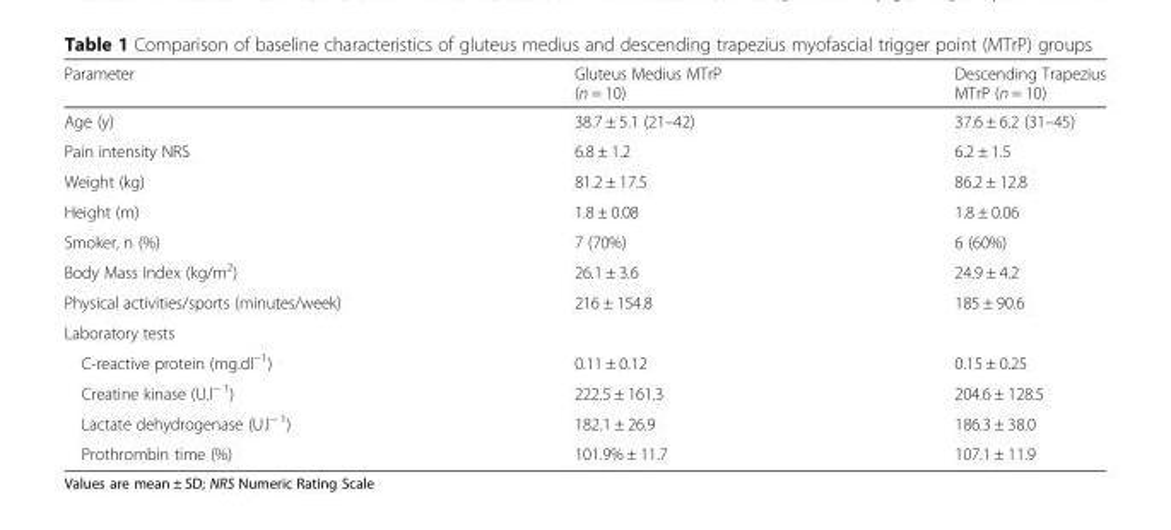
<table><thead><tr><td>Parameter</td><td>Gluteus Medius MTrP (n = 10)</td><td>Descending Trapezius MTrP (n = 10)</td></tr></thead><tbody><tr><td>Age (y)</td><td>38.7 ± 5.1 (21–42)</td><td>37.6 ± 6.2 (31–45)</td></tr><tr><td>Pain intensity NRS</td><td>6.8 ± 1.2</td><td>6.2 ± 1.5</td></tr><tr><td>Weight (kg)</td><td>81.2 ± 17.5</td><td>86.2 ± 12.8</td></tr><tr><td>Height (m)</td><td>1.8 ± 0.08</td><td>1.8 ± 0.06</td></tr><tr><td>Smoker, n (%)</td><td>7 (70%)</td><td>6 (60%)</td></tr><tr><td>Body Mass Index (kg/m<sup>2</sup>)</td><td>26.1 ± 3.6</td><td>24.9 ± 4.2</td></tr><tr><td>Physical activities/sports (minutes/week)</td><td>216 ± 154.8</td><td>185 ± 90.6</td></tr><tr><td colspan="3">Laboratory tests</td></tr><tr><td>C-reactive protein (mg.dl<sup>−1</sup>)</td><td>0.11 ± 0.12</td><td>0.15 ± 0.25</td></tr><tr><td>Creatine kinase (U.l<sup>− 1</sup>)</td><td>222.5 ± 161.3</td><td>204.6 ± 128.5</td></tr><tr><td>Lactate dehydrogenase (U.l<sup>− 1</sup>)</td><td>182.1 ± 26.9</td><td>186.3 ± 38.0</td></tr><tr><td>Prothrombin time (%)</td><td>101.9% ± 11.7</td><td>107.1 ± 11.9</td></tr></tbody></table>